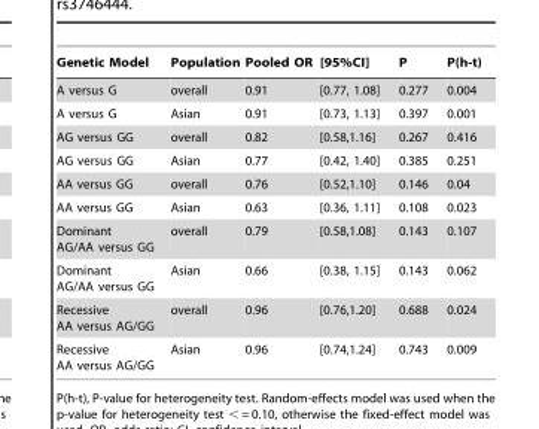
<table><thead><tr><td>Genetic Model</td><td>Population</td><td>Pooled OR</td><td>[95%CI]</td><td>P</td><td>P(h-t)</td></tr></thead><tbody><tr><td>A versus G</td><td>overall</td><td>0.91</td><td>[0.77, 1.08]</td><td>0.277</td><td>0.004</td></tr><tr><td>A versus G</td><td>Asian</td><td>0.91</td><td>[0.73, 1.13]</td><td>0.397</td><td>0.001</td></tr><tr><td>AG versus GG</td><td>overall</td><td>0.82</td><td>[0.58,1.16]</td><td>0.267</td><td>0.416</td></tr><tr><td>AG versus GG</td><td>Asian</td><td>0.77</td><td>[0.42, 1.40]</td><td>0.385</td><td>0.251</td></tr><tr><td>AA versus GG</td><td>overall</td><td>0.76</td><td>[0.52,1.10]</td><td>0.146</td><td>0.04</td></tr><tr><td>AA versus GG</td><td>Asian</td><td>0.63</td><td>[0.36, 1.11]</td><td>0.108</td><td>0.023</td></tr><tr><td>Dominant AG/AA versus GG</td><td>overall</td><td>0.79</td><td>[0.58,1.08]</td><td>0.143</td><td>0.107</td></tr><tr><td>Dominant AG/AA versus GG</td><td>Asian</td><td>0.66</td><td>[0.38, 1.15]</td><td>0.143</td><td>0.062</td></tr><tr><td>Recessive AA versus AG/GG</td><td>overall</td><td>0.96</td><td>[0.76,1.20]</td><td>0.688</td><td>0.024</td></tr><tr><td>Recessive AA versus AG/GG</td><td>Asian</td><td>0.96</td><td>[0.74,1.24]</td><td>0.743</td><td>0.009</td></tr></tbody></table>